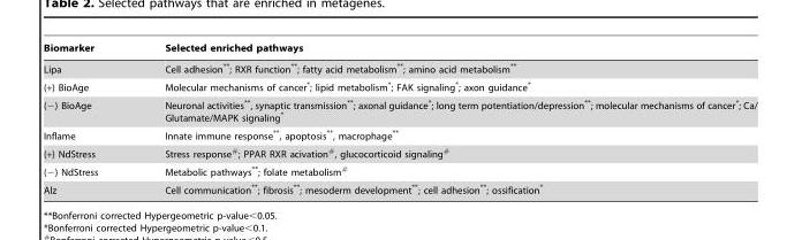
<table><thead><tr><td>Biomarker</td><td>Selected enriched pathways</td></tr></thead><tbody><tr><td>Lipa</td><td>Cell adhesion**; RXR function**; fatty acid metabolism**; amino acid metabolism**</td></tr><tr><td>(+) BioAge</td><td>Molecular mechanisms of cancer*; lipid metabolism*; FAK signaling*; axon guidance*</td></tr><tr><td>(−) BioAge</td><td>Neuronal activities**, synaptic transmission**; axonal guidance*; long term potentiation/depression**; molecular mechanisms of cancer*; Ca/ Glutamate/MAPK signaling*</td></tr><tr><td>Inflame</td><td>Innate immune response**, apoptosis**, macrophage**</td></tr><tr><td>(+) NdStress</td><td>Stress response#; PPAR RXR acivation#, glucocorticoid signaling#</td></tr><tr><td>(−) NdStress</td><td>Metabolic pathways**; folate metabolism#</td></tr><tr><td>Alz</td><td>Cell communication**; fibrosis**; mesoderm development**; cell adhesion**; ossification*</td></tr></tbody></table>